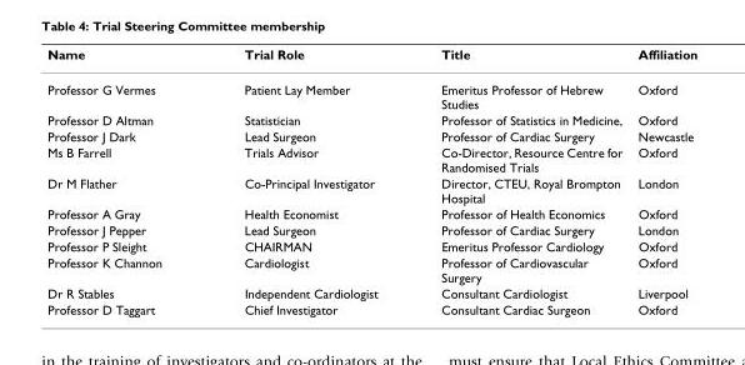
<table><thead><tr><td>Name</td><td>Trial Role</td><td>Title</td><td>Affiliation</td></tr></thead><tbody><tr><td>Professor G Vermes</td><td>Patient Lay Member</td><td>Emeritus Professor of Hebrew Studies</td><td>Oxford</td></tr><tr><td>Professor D Altman</td><td>Statistician</td><td>Professor of Statistics in Medicine,</td><td>Oxford</td></tr><tr><td>Professor J Dark</td><td>Lead Surgeon</td><td>Professor of Cardiac Surgery</td><td>Newcastle</td></tr><tr><td>Ms B Farrell</td><td>Trials Advisor</td><td>Co-Director, Resource Centre for Randomised Trials</td><td>Oxford</td></tr><tr><td>Dr M Flather</td><td>Co-Principal Investigator</td><td>Director, CTEU, Royal Brompton Hospital</td><td>London</td></tr><tr><td>Professor A Gray</td><td>Health Economist</td><td>Professor of Health Economics</td><td>Oxford</td></tr><tr><td>Professor J Pepper</td><td>Lead Surgeon</td><td>Professor of Cardiac Surgery</td><td>London</td></tr><tr><td>Professor P Sleight</td><td>CHAIRMAN</td><td>Emeritus Professor Cardiology</td><td>Oxford</td></tr><tr><td>Professor K Channon</td><td>Cardiologist</td><td>Professor of Cardiovascular Surgery</td><td>Oxford</td></tr><tr><td>Dr R Stables</td><td>Independent Cardiologist</td><td>Consultant Cardiologist</td><td>Liverpool</td></tr><tr><td>Professor D Taggart</td><td>Chief Investigator</td><td>Consultant Cardiac Surgeon</td><td>Oxford</td></tr></tbody></table>